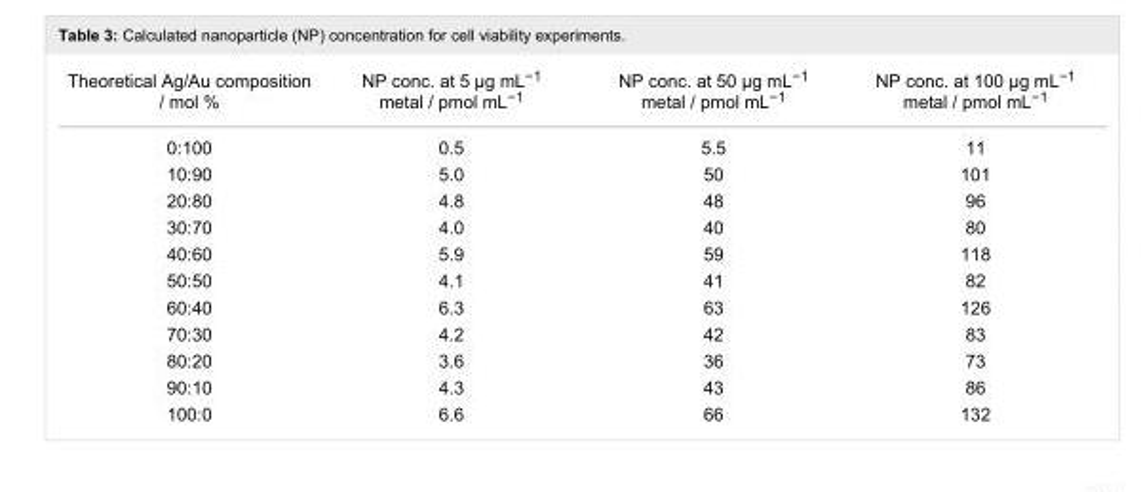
<table><tbody><tr><td>Theoretical Ag/Au composition / mol %</td><td>NP conc. at 5 µg mL<sup>−1</sup> metal / pmol mL<sup>−1</sup></td><td>NP conc. at 50 µg mL<sup>−1</sup> metal / pmol mL<sup>−1</sup></td><td>NP conc. at 100 µg mL<sup>−1</sup> metal / pmol mL<sup>−1</sup></td></tr><tr><td>0:100</td><td>0.5</td><td>5.5</td><td>11</td></tr><tr><td>10:90</td><td>5.0</td><td>50</td><td>101</td></tr><tr><td>20:80</td><td>4.8</td><td>48</td><td>96</td></tr><tr><td>30:70</td><td>4.0</td><td>40</td><td>80</td></tr><tr><td>40:60</td><td>5.9</td><td>59</td><td>118</td></tr><tr><td>50:50</td><td>4.1</td><td>41</td><td>82</td></tr><tr><td>60:40</td><td>6.3</td><td>63</td><td>126</td></tr><tr><td>70:30</td><td>4.2</td><td>42</td><td>83</td></tr><tr><td>80:20</td><td>3.6</td><td>36</td><td>73</td></tr><tr><td>90:10</td><td>4.3</td><td>43</td><td>86</td></tr><tr><td>100:0</td><td>6.6</td><td>66</td><td>132</td></tr></tbody></table>